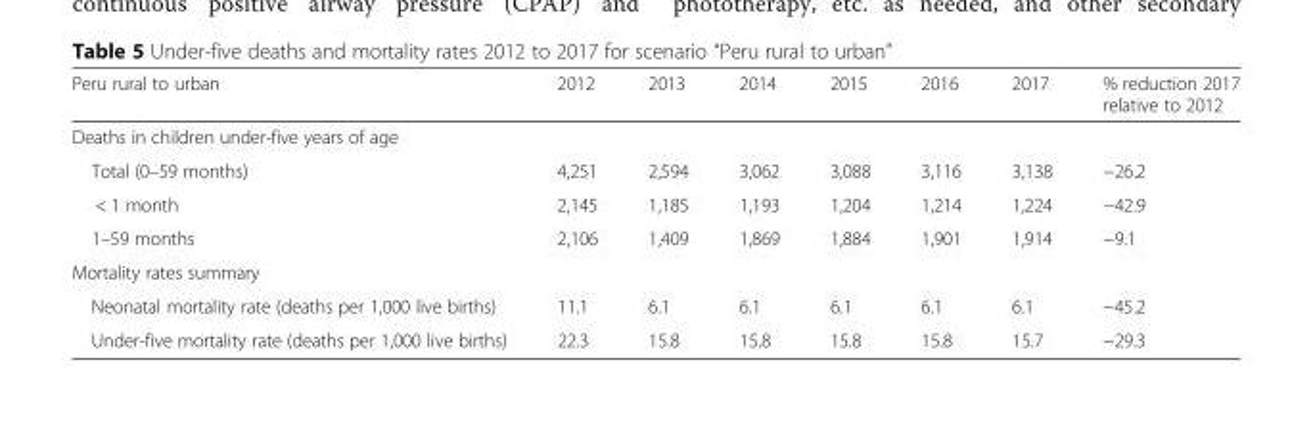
<table><thead><tr><td>Peru rural to urban</td><td>2012</td><td>2013</td><td>2014</td><td>2015</td><td>2016</td><td>2017</td><td>% reduction 2017 relative to 2012</td></tr></thead><tbody><tr><td colspan="8">Deaths in children under-five years of age</td></tr><tr><td>Total (0–59 months)</td><td>4,251</td><td>2,594</td><td>3,062</td><td>3,088</td><td>3,116</td><td>3,138</td><td>−26.2</td></tr><tr><td>&lt; 1 month</td><td>2,145</td><td>1,185</td><td>1,193</td><td>1,204</td><td>1,214</td><td>1,224</td><td>−42.9</td></tr><tr><td>1–59 months</td><td>2,106</td><td>1,409</td><td>1,869</td><td>1,884</td><td>1,901</td><td>1,914</td><td>−9.1</td></tr><tr><td colspan="8">Mortality rates summary</td></tr><tr><td>Neonatal mortality rate (deaths per 1,000 live births)</td><td>11.1</td><td>6.1</td><td>6.1</td><td>6.1</td><td>6.1</td><td>6.1</td><td>−45.2</td></tr><tr><td>Under-five mortality rate (deaths per 1,000 live births)</td><td>22.3</td><td>15.8</td><td>15.8</td><td>15.8</td><td>15.8</td><td>15.7</td><td>−29.3</td></tr></tbody></table>